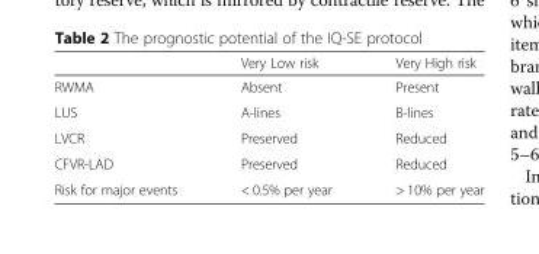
<table><thead><tr><td></td><td>Very Low risk</td><td>Very High risk</td></tr></thead><tbody><tr><td>RWMA</td><td>Absent</td><td>Present</td></tr><tr><td>LUS</td><td>A-lines</td><td>B-lines</td></tr><tr><td>LVCR</td><td>Preserved</td><td>Reduced</td></tr><tr><td>CFVR-LAD</td><td>Preserved</td><td>Reduced</td></tr><tr><td>Risk for major events</td><td>&lt; 0.5% per year</td><td>&gt; 10% per year</td></tr></tbody></table>